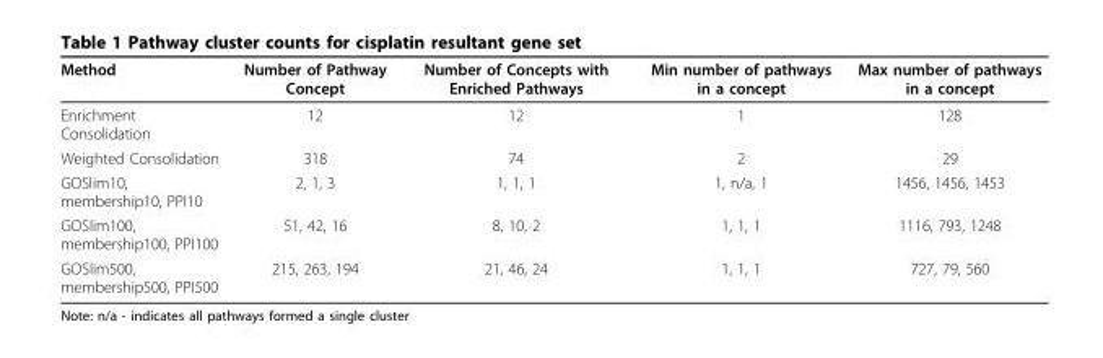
<table><thead><tr><td>Method</td><td>Number of Pathway Concept</td><td>Number of Concepts with Enriched Pathways</td><td>Min number of pathways in a concept</td><td>Max number of pathways in a concept</td></tr></thead><tbody><tr><td>Enrichment Consolidation</td><td>12</td><td>12</td><td>1</td><td>128</td></tr><tr><td>Weighted Consolidation</td><td>318</td><td>74</td><td>2</td><td>29</td></tr><tr><td>GOSlim10, membership10, PPI10</td><td>2, 1, 3</td><td>1, 1, 1</td><td>1, n/a, 1</td><td>1456, 1456, 1453</td></tr><tr><td>GOSlim100, membership100, PPI100</td><td>51, 42, 16</td><td>8, 10, 2</td><td>1, 1, 1</td><td>1116, 793, 1248</td></tr><tr><td>GOSlim500, membership500, PPI500</td><td>215, 263, 194</td><td>21, 46, 24</td><td>1, 1, 1</td><td>727, 79, 560</td></tr></tbody></table>